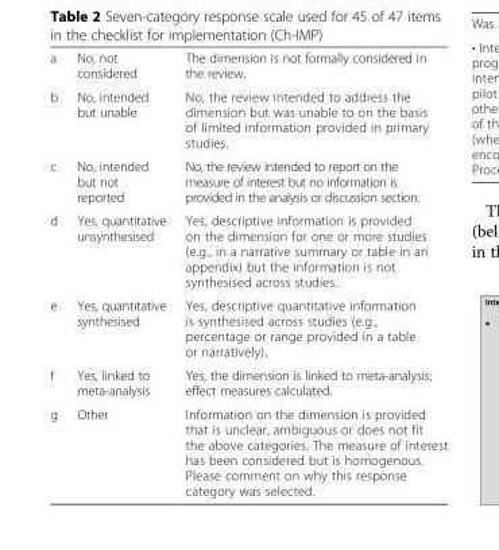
<table><tbody><tr><td>a</td><td>No, not considered</td><td>The dimension is not formally considered in the review.</td></tr><tr><td>b</td><td>No, intended but unable</td><td>No, the review intended to address the dimension but was unable to on the basis of limited information provided in primary studies.</td></tr><tr><td>c</td><td>No, intended but not reported</td><td>No, the review intended to report on the measure of interest but no information is provided in the analysis or discussion section.</td></tr><tr><td>d</td><td>Yes, quantitative unsynthesised</td><td>Yes, descriptive information is provided on the dimension for one or more studies (e.g., in a narrative summary or table in an appendix) but the information is not synthesised across studies.</td></tr><tr><td>e</td><td>Yes, quantitative synthesised</td><td>Yes, descriptive quantitative information is synthesised across studies (e.g., percentage or range provided in a table or narratively).</td></tr><tr><td>f</td><td>Yes, linked to meta-analysis</td><td>Yes, the dimension is linked to meta-analysis; effect measures calculated.</td></tr><tr><td>g</td><td>Other</td><td>Information on the dimension is provided that is unclear, ambiguous or does not fit the above categories. The measure of interest has been considered but is homogenous. Please comment on why this response category was selected.</td></tr></tbody></table>